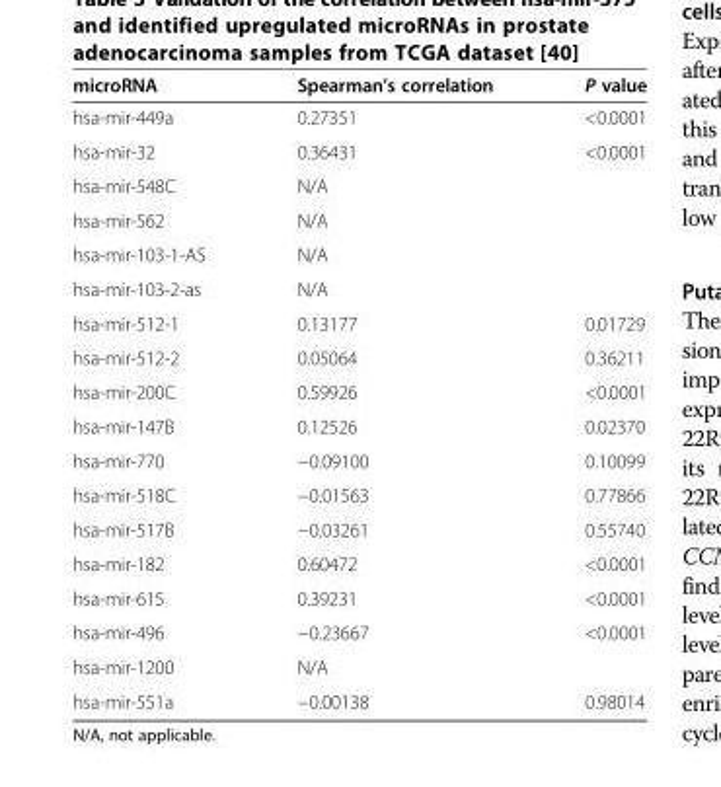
<table><thead><tr><td>microRNA</td><td>Spearman’s correlation</td><td>P value</td></tr></thead><tbody><tr><td>hsa-mir-449a</td><td>0.27351</td><td>&lt;0.0001</td></tr><tr><td>hsa-mir-32</td><td>0.36431</td><td>&lt;0.0001</td></tr><tr><td>hsa-mir-548C</td><td colspan="2">N/A</td></tr><tr><td>hsa-mir-562</td><td colspan="2">N/A</td></tr><tr><td>hsa-mir-103-1-AS</td><td colspan="2">N/A</td></tr><tr><td>hsa-mir-103-2-as</td><td colspan="2">N/A</td></tr><tr><td>hsa-mir-512-1</td><td>0.13177</td><td>0.01729</td></tr><tr><td>hsa-mir-512-2</td><td>0.05064</td><td>0.36211</td></tr><tr><td>hsa-mir-200C</td><td>0.59926</td><td>&lt;0.0001</td></tr><tr><td>hsa-mir-147B</td><td>0.12526</td><td>0.02370</td></tr><tr><td>hsa-mir-770</td><td>−0.09100</td><td>0.10099</td></tr><tr><td>hsa-mir-518C</td><td>−0.01563</td><td>0.77866</td></tr><tr><td>hsa-mir-517B</td><td>−0.03261</td><td>0.55740</td></tr><tr><td>hsa-mir-182</td><td>0.60472</td><td>&lt;0.0001</td></tr><tr><td>hsa-mir-615</td><td>0.39231</td><td>&lt;0.0001</td></tr><tr><td>hsa-mir-496</td><td>−0.23667</td><td>&lt;0.0001</td></tr><tr><td>hsa-mir-1200</td><td colspan="2">N/A</td></tr><tr><td>hsa-mir-551a</td><td>−0.00138</td><td>0.98014</td></tr></tbody></table>